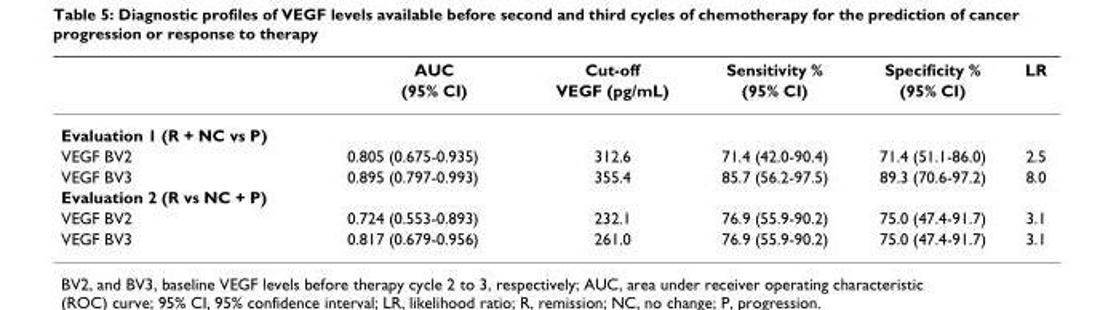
<table><thead><tr><td rowspan="2"></td><td rowspan="2">AUC (95% CI)</td><td rowspan="2">Cut-off VEGF (pg/mL)</td><td rowspan="2">Sensitivity % (95% CI)</td><td rowspan="2">Specificity % (95% CI)</td><td rowspan="2">LR</td></tr><tr></tr></thead><tbody><tr><td colspan="6">Evaluation 1 (R + NC vs P)</td></tr><tr><td>VEGF BV2</td><td>0.805 (0.675-0.935)</td><td>312.6</td><td>71.4 (42.0-90.4)</td><td>71.4 (51.1-86.0)</td><td>2.5</td></tr><tr><td>VEGF BV3</td><td>0.895 (0.797-0.993)</td><td>355.4</td><td>85.7 (56.2-97.5)</td><td>89.3 (70.6-97.2)</td><td>8.0</td></tr><tr><td colspan="6">Evaluation 2 (R vs NC + P)</td></tr><tr><td>VEGF BV2</td><td>0.724 (0.553-0.893)</td><td>232.1</td><td>76.9 (55.9-90.2)</td><td>75.0 (47.4-91.7)</td><td>3.1</td></tr><tr><td>VEGF BV3</td><td>0.817 (0.679-0.956)</td><td>261.0</td><td>76.9 (55.9-90.2)</td><td>75.0 (47.4-91.7)</td><td>3.1</td></tr></tbody></table>